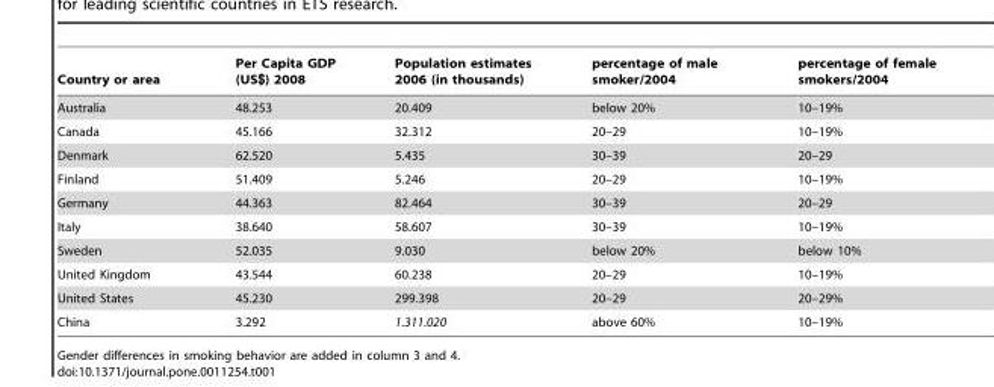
<table><thead><tr><td>Country or area</td><td>Per Capita GDP (US$) 2008</td><td>Population estimates 2006 (in thousands)</td><td>percentage of male smoker/2004</td><td>percentage of female smokers/2004</td></tr></thead><tbody><tr><td>Australia</td><td>48.253</td><td>20.409</td><td>below 20%</td><td>10–19%</td></tr><tr><td>Canada</td><td>45.166</td><td>32.312</td><td>20–29</td><td>10–19%</td></tr><tr><td>Denmark</td><td>62.520</td><td>5.435</td><td>30–39</td><td>20–29</td></tr><tr><td>Finland</td><td>51.409</td><td>5.246</td><td>20–29</td><td>10–19%</td></tr><tr><td>Germany</td><td>44.363</td><td>82.464</td><td>30–39</td><td>20–29</td></tr><tr><td>Italy</td><td>38.640</td><td>58.607</td><td>30–39</td><td>10–19%</td></tr><tr><td>Sweden</td><td>52.035</td><td>9.030</td><td>below 20%</td><td>below 10%</td></tr><tr><td>United Kingdom</td><td>43.544</td><td>60.238</td><td>20–29</td><td>10–19%</td></tr><tr><td>United States</td><td>45.230</td><td>299.398</td><td>20–29</td><td>20–29%</td></tr><tr><td>China</td><td>3.292</td><td>1.311.020</td><td>above 60%</td><td>10–19%</td></tr></tbody></table>